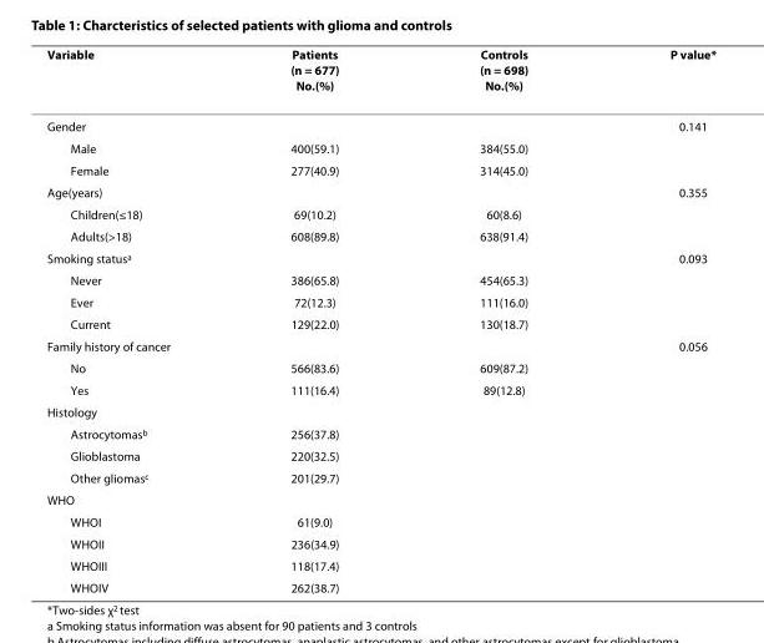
<table><thead><tr><td>Variable</td><td>Patients (n = 677) No.(%)</td><td>Controls (n = 698) No.(%)</td><td>P value*</td></tr></thead><tbody><tr><td>Gender</td><td></td><td></td><td>0.141</td></tr><tr><td>Male</td><td>400(59.1)</td><td>384(55.0)</td><td></td></tr><tr><td>Female</td><td>277(40.9)</td><td>314(45.0)</td><td></td></tr><tr><td>Age(years)</td><td></td><td></td><td>0.355</td></tr><tr><td>Children(≤18)</td><td>69(10.2)</td><td>60(8.6)</td><td></td></tr><tr><td>Adults(&gt;18)</td><td>608(89.8)</td><td>638(91.4)</td><td></td></tr><tr><td>Smoking status<sup>a</sup></td><td></td><td></td><td>0.093</td></tr><tr><td>Never</td><td>386(65.8)</td><td>454(65.3)</td><td></td></tr><tr><td>Ever</td><td>72(12.3)</td><td>111(16.0)</td><td></td></tr><tr><td>Current</td><td>129(22.0)</td><td>130(18.7)</td><td></td></tr><tr><td>Family history of cancer</td><td></td><td></td><td>0.056</td></tr><tr><td>No</td><td>566(83.6)</td><td>609(87.2)</td><td></td></tr><tr><td>Yes</td><td>111(16.4)</td><td>89(12.8)</td><td></td></tr><tr><td colspan="4">Histology</td></tr><tr><td>Astrocytomas<sup>b</sup></td><td>256(37.8)</td><td></td><td></td></tr><tr><td>Glioblastoma</td><td>220(32.5)</td><td></td><td></td></tr><tr><td>Other gliomas<sup>c</sup></td><td>201(29.7)</td><td></td><td></td></tr><tr><td colspan="4">WHO</td></tr><tr><td>WHOI</td><td>61(9.0)</td><td></td><td></td></tr><tr><td>WHOII</td><td>236(34.9)</td><td></td><td></td></tr><tr><td>WHOIII</td><td>118(17.4)</td><td></td><td></td></tr><tr><td>WHOIV</td><td>262(38.7)</td><td></td><td></td></tr></tbody></table>